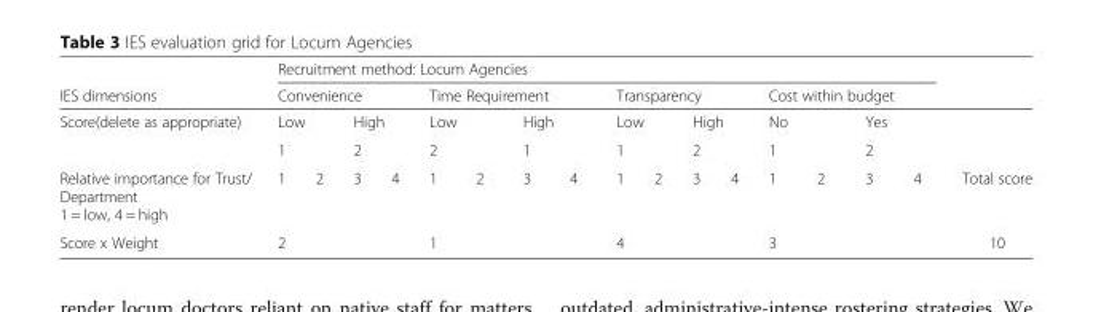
<table><thead><tr><td rowspan="5">IES dimensions Score(delete as appropriate) Relative importance for Trust/ Department 1 = low, 4 = high</td><td colspan="16">Recruitment method: Locum Agencies</td><td rowspan="5">Total score</td></tr><tr><td colspan="4">Convenience</td><td colspan="4">Time Requirement</td><td colspan="4">Transparency</td><td colspan="4">Cost within budget</td></tr><tr><td rowspan="2" colspan="2">Low 1</td><td rowspan="2" colspan="2">High 2</td><td rowspan="2" colspan="2">Low 2</td><td rowspan="2" colspan="2">High 1</td><td rowspan="2" colspan="2">Low 1</td><td rowspan="2" colspan="2">High 2</td><td rowspan="2" colspan="2">No 1</td><td rowspan="2" colspan="2">Yes 2</td></tr><tr></tr><tr><td>1</td><td>2</td><td>3</td><td>4</td><td>1</td><td>2</td><td>3</td><td>4</td><td>1</td><td>2</td><td>3</td><td>4</td><td>1</td><td>2</td><td>3</td><td>4</td></tr></thead><tbody><tr><td>Score x Weight</td><td colspan="4">2</td><td colspan="4">1</td><td colspan="4">4</td><td colspan="4">3</td><td>10</td></tr></tbody></table>